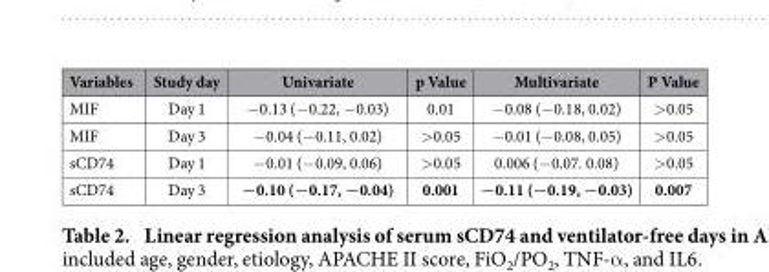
<table><thead><tr><td>Variables</td><td>Study day</td><td>Univariate</td><td>p Value</td><td>Multivariate</td><td>P Value</td></tr></thead><tbody><tr><td>MIF</td><td>Day 1</td><td>− 0.13 (− 0.22, − 0.03)</td><td>0.01</td><td>− 0.08 (− 0.18, 0.02)</td><td>&gt; 0.05</td></tr><tr><td>MIF</td><td>Day 3</td><td>− 0.04 (− 0.11, 0.02)</td><td>&gt; 0.05</td><td>− 0.01 (− 0.08, 0.05)</td><td>&gt; 0.05</td></tr><tr><td>sCD74</td><td>Day 1</td><td>− 0.01 (− 0.09, 0.06)</td><td>&gt; 0.05</td><td>0.006 (− 0.07. 0.08)</td><td>&gt; 0.05</td></tr><tr><td>sCD74</td><td>Day 3</td><td>−0.10 (−0.17, −0.04)</td><td>0.001</td><td>−0.11 (−0.19, −0.03)</td><td>0.007</td></tr></tbody></table>